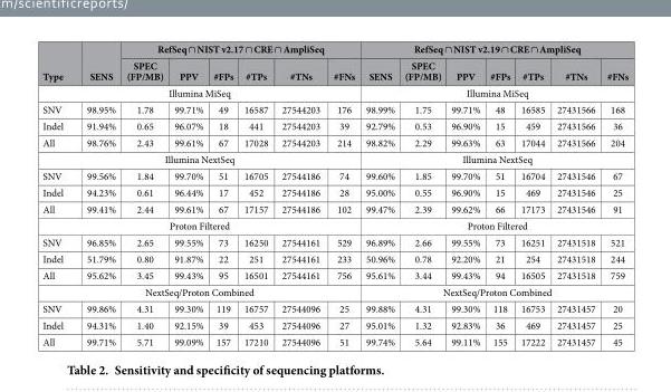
<table><thead><tr><td rowspan="2">Type</td><td rowspan="2">SENS</td><td colspan="6">RefSeq ∩ NIST v2.17 ∩ CRE ∩ AmpliSeq</td><td colspan="7">RefSeq ∩ NIST v2.19 ∩ CRE ∩ AmpliSeq</td></tr><tr><td>SPEC (FP/MB)</td><td>PPV</td><td>#FPs</td><td>#TPs</td><td>#TNs</td><td>#FNs</td><td>SENS</td><td>SPEC (FP/MB)</td><td>PPV</td><td>#FPs</td><td>#TPs</td><td>#TNs</td><td>#FNs</td></tr></thead><tbody><tr><td colspan="8">Illumina MiSeq</td><td colspan="7">Illumina MiSeq</td></tr><tr><td>SNV</td><td>98.95%</td><td>1.78</td><td>99.71%</td><td>49</td><td>16587</td><td>27544203</td><td>176</td><td>98.99%</td><td>1.75</td><td>99.71%</td><td>48</td><td>16585</td><td>27431566</td><td>168</td></tr><tr><td>Indel</td><td>91.94%</td><td>0.65</td><td>96.07%</td><td>18</td><td>441</td><td>27544203</td><td>39</td><td>92.79%</td><td>0.53</td><td>96.90%</td><td>15</td><td>459</td><td>27431566</td><td>36</td></tr><tr><td>All</td><td>98.76%</td><td>2.43</td><td>99.61%</td><td>67</td><td>17028</td><td>27544203</td><td>214</td><td>98.82%</td><td>2.29</td><td>99.63%</td><td>63</td><td>17044</td><td>27431566</td><td>204</td></tr><tr><td colspan="8">Illumina NextSeq</td><td colspan="7">Illumina NextSeq</td></tr><tr><td>SNV</td><td>99.56%</td><td>1.84</td><td>99.70%</td><td>51</td><td>16705</td><td>27544186</td><td>74</td><td>99.60%</td><td>1.85</td><td>99.70%</td><td>51</td><td>16704</td><td>27431546</td><td>67</td></tr><tr><td>Indel</td><td>94.23%</td><td>0.61</td><td>96.44%</td><td>17</td><td>452</td><td>27544186</td><td>28</td><td>95.00%</td><td>0.55</td><td>96.90%</td><td>15</td><td>469</td><td>27431546</td><td>25</td></tr><tr><td>All</td><td>99.41%</td><td>2.44</td><td>99.61%</td><td>67</td><td>17157</td><td>27544186</td><td>102</td><td>99.47%</td><td>2.39</td><td>99.62%</td><td>66</td><td>17173</td><td>27431546</td><td>91</td></tr><tr><td colspan="8">Proton Filtered</td><td colspan="7">Proton Filtered</td></tr><tr><td>SNV</td><td>96.85%</td><td>2.65</td><td>99.55%</td><td>73</td><td>16250</td><td>27544161</td><td>529</td><td>96.89%</td><td>2.66</td><td>99.55%</td><td>73</td><td>16251</td><td>27431518</td><td>521</td></tr><tr><td>Indel</td><td>51.79%</td><td>0.80</td><td>91.87%</td><td>22</td><td>251</td><td>27544161</td><td>233</td><td>50.96%</td><td>0.78</td><td>92.20%</td><td>21</td><td>254</td><td>27431518</td><td>244</td></tr><tr><td>All</td><td>95.62%</td><td>3.45</td><td>99.43%</td><td>95</td><td>16501</td><td>27544161</td><td>756</td><td>95.61%</td><td>3.44</td><td>99.43%</td><td>94</td><td>16505</td><td>27431518</td><td>759</td></tr><tr><td colspan="8">NextSeq/Proton Combined</td><td colspan="7">NextSeq/Proton Combined</td></tr><tr><td>SNV</td><td>99.86%</td><td>4.31</td><td>99.30%</td><td>119</td><td>16757</td><td>27544096</td><td>25</td><td>99.88%</td><td>4.31</td><td>99.30%</td><td>118</td><td>16753</td><td>27431457</td><td>20</td></tr><tr><td>Indel</td><td>94.31%</td><td>1.40</td><td>92.15%</td><td>39</td><td>453</td><td>27544096</td><td>27</td><td>95.01%</td><td>1.32</td><td>92.83%</td><td>36</td><td>469</td><td>27431457</td><td>25</td></tr><tr><td>All</td><td>99.71%</td><td>5.71</td><td>99.09%</td><td>157</td><td>17210</td><td>27544096</td><td>51</td><td>99.74%</td><td>5.64</td><td>99.11%</td><td>155</td><td>17222</td><td>27431457</td><td>45</td></tr></tbody></table>